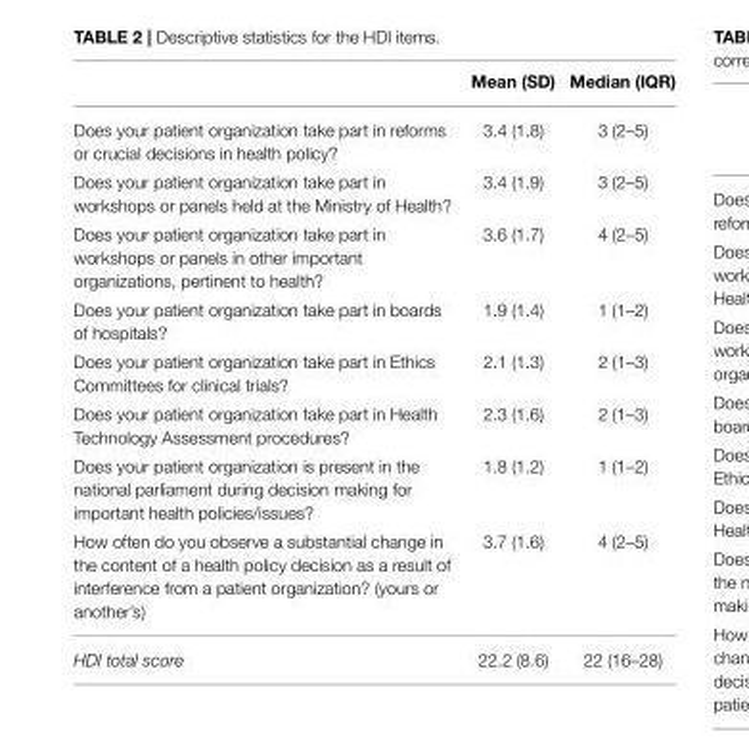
<table><thead><tr><td></td><td>Mean (SD)</td><td>Median (IQR)</td></tr></thead><tbody><tr><td>Does your patient organization take part in reforms or crucial decisions in health policy?</td><td>3.4 (1.8)</td><td>3 (2–5)</td></tr><tr><td>Does your patient organization take part in workshops or panels held at the Ministry of Health?</td><td>3.4 (1.9)</td><td>3 (2–5)</td></tr><tr><td>Does your patient organization take part in workshops or panels in other important organizations, pertinent to health?</td><td>3.6 (1.7)</td><td>4 (2–5)</td></tr><tr><td>Does your patient organization take part in boards of hospitals?</td><td>1.9 (1.4)</td><td>1 (1–2)</td></tr><tr><td>Does your patient organization take part in Ethics Committees for clinical trials?</td><td>2.1 (1.3)</td><td>2 (1–3)</td></tr><tr><td>Does your patient organization take part in Health Technology Assessment procedures?</td><td>2.3 (1.6)</td><td>2 (1–3)</td></tr><tr><td>Does your patient organization is present in the national parliament during decision making for important health policies/issues?</td><td>1.8 (1.2)</td><td>1 (1–2)</td></tr><tr><td>How often do you observe a substantial change in the content of a health policy decision as a result of interference from a patient organization? (yours or another’s)</td><td>3.7 (1.6)</td><td>4 (2–5)</td></tr><tr><td>HDI total score</td><td>22.2 (8.6)</td><td>22 (16–28)</td></tr></tbody></table>